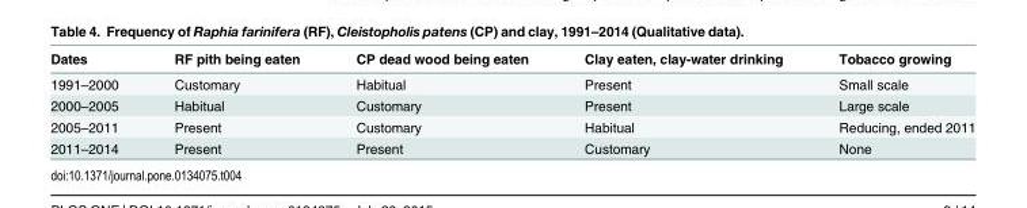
<table><thead><tr><td>Dates</td><td>RF pith being eaten</td><td>CP dead wood being eaten</td><td>Clay eaten, clay-water drinking</td><td>Tobacco growing</td></tr></thead><tbody><tr><td>1991–2000</td><td>Customary</td><td>Habitual</td><td>Present</td><td>Small scale</td></tr><tr><td>2000–2005</td><td>Habitual</td><td>Customary</td><td>Present</td><td>Large scale</td></tr><tr><td>2005–2011</td><td>Present</td><td>Customary</td><td>Habitual</td><td>Reducing, ended 2011</td></tr><tr><td>2011–2014</td><td>Present</td><td>Present</td><td>Customary</td><td>None</td></tr></tbody></table>